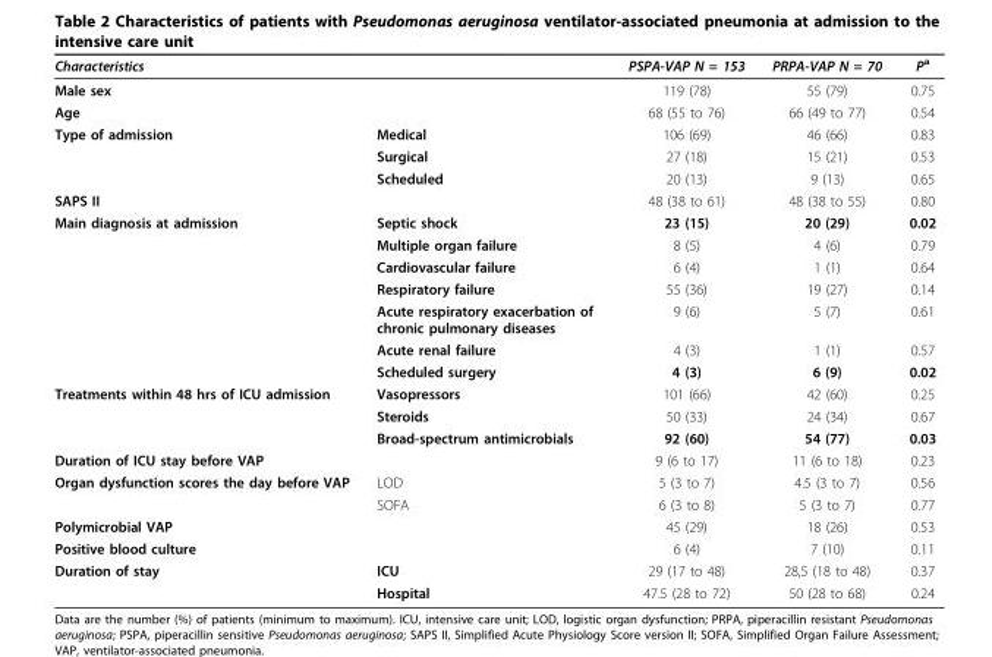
<table><thead><tr><td rowspan="3" colspan="2">Characteristics Male sex Age</td><td rowspan="4">PSPA-VAP N = 153 119 (78) 68 (55 to 76) 106 (69)</td><td rowspan="4">PRPA-VAP N = 70 55 (79) 66 (49 to 77) 46 (66)</td><td rowspan="4">P<sup>a</sup> 0.75 0.54 0.83</td></tr><tr></tr><tr></tr><tr><td>Type of admission</td><td>Medical</td></tr></thead><tbody><tr><td></td><td>Surgical</td><td>27 (18)</td><td>15 (21)</td><td>0.53</td></tr><tr><td></td><td>Scheduled</td><td>20 (13)</td><td>9 (13)</td><td>0.65</td></tr><tr><td>SAPS II</td><td></td><td>48 (38 to 61)</td><td>48 (38 to 55)</td><td>0.80</td></tr><tr><td rowspan="7">Main diagnosis at admission</td><td>Septic shock</td><td>23 (15)</td><td>20 (29)</td><td>0.02</td></tr><tr><td>Multiple organ failure</td><td>8 (5)</td><td>4 (6)</td><td>0.79</td></tr><tr><td>Cardiovascular failure</td><td>6 (4)</td><td>1 (1)</td><td>0.64</td></tr><tr><td>Respiratory failure</td><td>55 (36)</td><td>19 (27)</td><td>0.14</td></tr><tr><td>Acute respiratory exacerbation of chronic pulmonary diseases</td><td>9 (6)</td><td>5 (7)</td><td>0.61</td></tr><tr><td>Acute renal failure</td><td>4 (3)</td><td>1 (1)</td><td>0.57</td></tr><tr><td>Scheduled surgery</td><td>4 (3)</td><td>6 (9)</td><td>0.02</td></tr><tr><td rowspan="3">Treatments within 48 hrs of ICU admission</td><td>Vasopressors</td><td>101 (66)</td><td>42 (60)</td><td>0.25</td></tr><tr><td>Steroids</td><td>50 (33)</td><td>24 (34)</td><td>0.67</td></tr><tr><td>Broad-spectrum antimicrobials</td><td>92 (60)</td><td>54 (77)</td><td>0.03</td></tr><tr><td colspan="2">Duration of ICU stay before VAP</td><td>9 (6 to 17)</td><td>11 (6 to 18)</td><td>0.23</td></tr><tr><td rowspan="2">Organ dysfunction scores the day before VAP</td><td>LOD</td><td>5 (3 to 7)</td><td>4.5 (3 to 7)</td><td>0.56</td></tr><tr><td>SOFA</td><td>6 (3 to 8)</td><td>5 (3 to 7)</td><td>0.77</td></tr><tr><td colspan="2">Polymicrobial VAP</td><td>45 (29)</td><td>18 (26)</td><td>0.53</td></tr><tr><td colspan="2">Positive blood culture</td><td>6 (4)</td><td>7 (10)</td><td>0.11</td></tr><tr><td rowspan="2">Duration of stay</td><td>ICU</td><td>29 (17 to 48)</td><td>28,5 (18 to 48)</td><td>0.37</td></tr><tr><td>Hospital</td><td>47.5 (28 to 72)</td><td>50 (28 to 68)</td><td>0.24</td></tr></tbody></table>